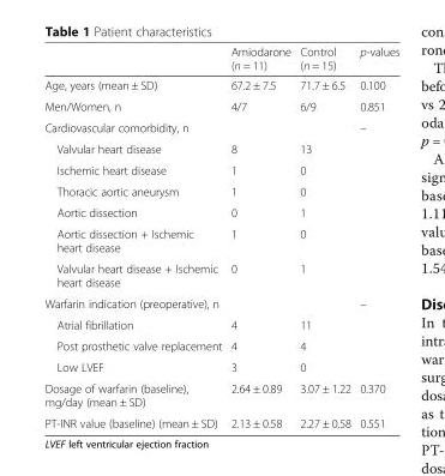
<table><thead><tr><td></td><td>Amiodarone (n = 11)</td><td>Control (n = 15)</td><td>p-values</td></tr></thead><tbody><tr><td>Age, years (mean ± SD)</td><td>67.2 ± 7.5</td><td>71.7 ± 6.5</td><td>0.100</td></tr><tr><td>Men/Women, n</td><td>4/7</td><td>6/9</td><td>0.851</td></tr><tr><td>Cardiovascular comorbidity, n</td><td></td><td></td><td>–</td></tr><tr><td>Valvular heart disease</td><td>8</td><td>13</td><td></td></tr><tr><td>Ischemic heart disease</td><td>1</td><td>0</td><td></td></tr><tr><td>Thoracic aortic aneurysm</td><td>1</td><td>0</td><td></td></tr><tr><td>Aortic dissection</td><td>0</td><td>1</td><td></td></tr><tr><td>Aortic dissection + Ischemic heart disease</td><td>1</td><td>0</td><td></td></tr><tr><td>Valvular heart disease + Ischemic heart disease</td><td>0</td><td>1</td><td></td></tr><tr><td>Warfarin indication (preoperative), n</td><td></td><td></td><td>–</td></tr><tr><td>Atrial fibrillation</td><td>4</td><td>11</td><td></td></tr><tr><td>Post prosthetic valve replacement</td><td>4</td><td>4</td><td></td></tr><tr><td>Low LVEF</td><td>3</td><td>0</td><td></td></tr><tr><td>Dosage of warfarin (baseline), mg/day (mean ± SD)</td><td>2.64 ± 0.89</td><td>3.07 ± 1.22</td><td>0.370</td></tr><tr><td>PT-INR value (baseline) (mean ± SD)</td><td>2.13 ± 0.58</td><td>2.27 ± 0.58</td><td>0.551</td></tr></tbody></table>